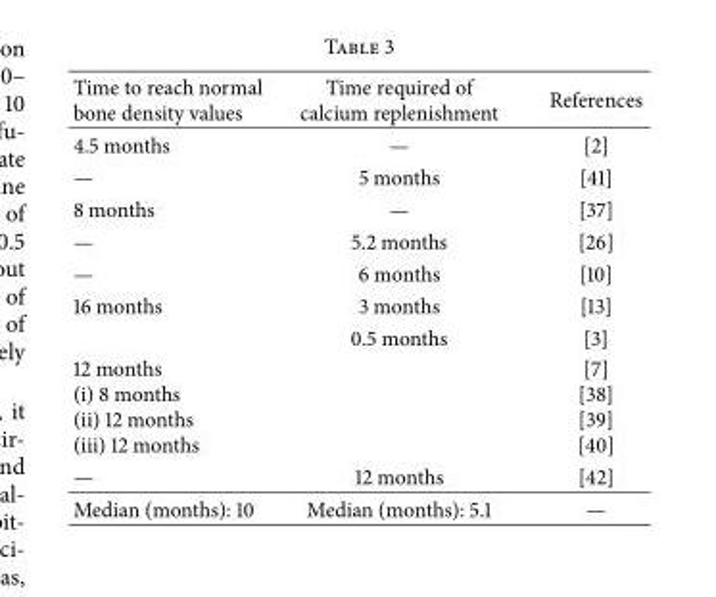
<table><thead><tr><td>Time to reach normal bone density values</td><td>Time required of calcium replenishment</td><td>References</td></tr></thead><tbody><tr><td>4.5 months</td><td>—</td><td>[2]</td></tr><tr><td>—</td><td>5 months</td><td>[41]</td></tr><tr><td>8 months</td><td>—</td><td>[37]</td></tr><tr><td>—</td><td>5.2 months</td><td>[26]</td></tr><tr><td>—</td><td>6 months</td><td>[10]</td></tr><tr><td rowspan="2">16 months</td><td>3 months</td><td>[13]</td></tr><tr><td>0.5 months</td><td>[3]</td></tr><tr><td>12 months (i) 8 months (ii) 12 months (iii) 12 months</td><td></td><td>[7] [38] [39] [40]</td></tr><tr><td>—</td><td>12 months</td><td>[42]</td></tr><tr><td>Median (months): 10</td><td>Median (months): 5.1</td><td>—</td></tr></tbody></table>